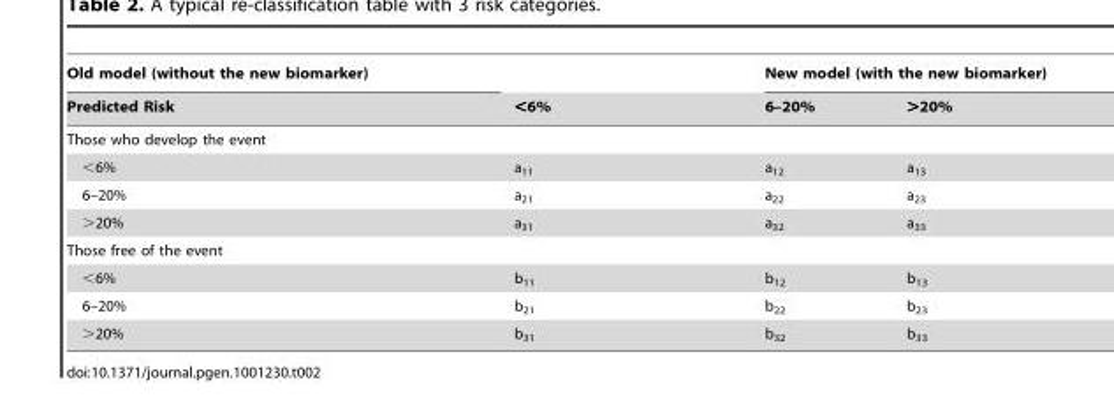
<table><thead><tr><td rowspan="2">Old model (without the new biomarker) Predicted Risk</td><td rowspan="2">&lt;6%</td><td colspan="2">New model (with the new biomarker)</td></tr><tr><td>6–20%</td><td>&gt;20%</td></tr></thead><tbody><tr><td colspan="4">Those who develop the event</td></tr><tr><td>&lt;6%</td><td>a<sub>11</sub></td><td>a<sub>12</sub></td><td>a<sub>13</sub></td></tr><tr><td>6–20%</td><td>a<sub>21</sub></td><td>a<sub>22</sub></td><td>a<sub>23</sub></td></tr><tr><td>&gt;20%</td><td>a<sub>31</sub></td><td>a<sub>32</sub></td><td>a<sub>33</sub></td></tr><tr><td colspan="4">Those free of the event</td></tr><tr><td>&lt;6%</td><td>b<sub>11</sub></td><td>b<sub>12</sub></td><td>b<sub>13</sub></td></tr><tr><td>6–20%</td><td>b<sub>21</sub></td><td>b<sub>22</sub></td><td>b<sub>23</sub></td></tr><tr><td>&gt;20%</td><td>b<sub>31</sub></td><td>b<sub>32</sub></td><td>b<sub>33</sub></td></tr></tbody></table>